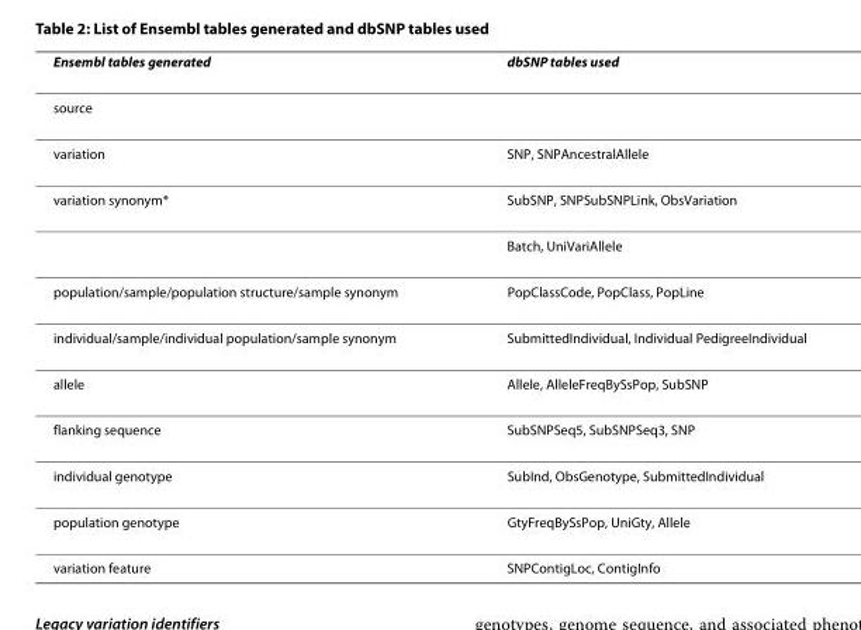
<table><thead><tr><td>Ensembl tables generated</td><td>dbSNP tables used</td></tr></thead><tbody><tr><td colspan="2">source</td></tr><tr><td>variation</td><td>SNP, SNPAncestralAllele</td></tr><tr><td rowspan="2">variation synonym*</td><td>SubSNP, SNPSubSNPLink, ObsVariation</td></tr><tr><td>Batch, UniVariAllele</td></tr><tr><td>population/sample/population structure/sample synonym</td><td>PopClassCode, PopClass, PopLine</td></tr><tr><td>individual/sample/individual population/sample synonym</td><td>SubmittedIndividual, Individual PedigreeIndividual</td></tr><tr><td>allele</td><td>Allele, AlleleFreqBySsPop, SubSNP</td></tr><tr><td>flanking sequence</td><td>SubSNPSeq5, SubSNPSeq3, SNP</td></tr><tr><td>individual genotype</td><td>SubInd, ObsGenotype, SubmittedIndividual</td></tr><tr><td>population genotype</td><td>GtyFreqBySsPop, UniGty, Allele</td></tr><tr><td>variation feature</td><td>SNPContigLoc, ContigInfo</td></tr></tbody></table>